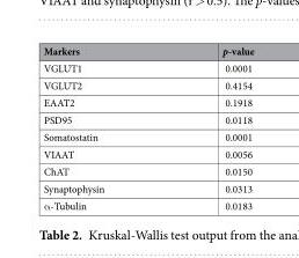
<table><thead><tr><td>Markers</td><td>p-value</td></tr></thead><tbody><tr><td>VGLUT1</td><td>0.0001</td></tr><tr><td>VGLUT2</td><td>0.4154</td></tr><tr><td>EAAT2</td><td>0.1918</td></tr><tr><td>PSD95</td><td>0.0118</td></tr><tr><td>Somatostatin</td><td>0.0001</td></tr><tr><td>VIAAT</td><td>0.0056</td></tr><tr><td>ChAT</td><td>0.0150</td></tr><tr><td>Synaptophysin</td><td>0.0313</td></tr><tr><td>α-Tubulin</td><td>0.0183</td></tr></tbody></table>